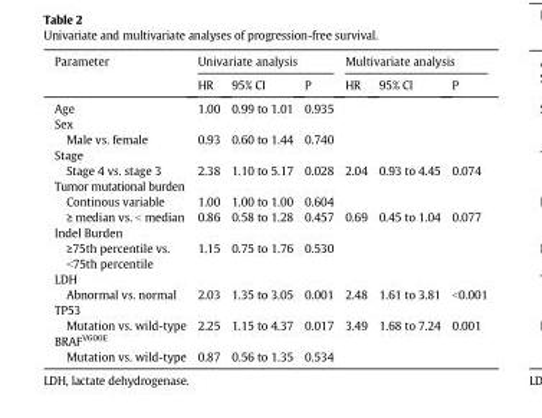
<table><thead><tr><td rowspan="2">Parameter</td><td colspan="3">Univariate analysis</td><td colspan="3">Multivariate analysis</td></tr><tr><td>HR</td><td>95% CI</td><td>P</td><td>HR</td><td>95% CI</td><td>P</td></tr></thead><tbody><tr><td>Age</td><td>1.00</td><td>0.99 to 1.01</td><td>0.935</td><td></td><td></td><td></td></tr><tr><td colspan="7">Sex</td></tr><tr><td>Male vs. female</td><td>0.93</td><td>0.60 to 1.44</td><td>0.740</td><td></td><td></td><td></td></tr><tr><td colspan="7">Stage</td></tr><tr><td>Stage 4 vs. stage 3</td><td>2.38</td><td>1.10 to 5.17</td><td>0.028</td><td>2.04</td><td>0.93 to 4.45</td><td>0.074</td></tr><tr><td colspan="7">Tumor mutational burden</td></tr><tr><td>Continous variable</td><td>1.00</td><td>1.00 to 1.00</td><td>0.604</td><td></td><td></td><td></td></tr><tr><td>≥ median vs. &lt; median</td><td>0.86</td><td>0.58 to 1.28</td><td>0.457</td><td>0.69</td><td>0.45 to 1.04</td><td>0.077</td></tr><tr><td colspan="7">Indel Burden</td></tr><tr><td>≥75th percentile vs. &lt;75th percentile</td><td>1.15</td><td>0.75 to 1.76</td><td>0.530</td><td></td><td></td><td></td></tr><tr><td colspan="7">LDH</td></tr><tr><td>Abnormal vs. normal</td><td>2.03</td><td>1.35 to 3.05</td><td>0.001</td><td>2.48</td><td>1.61 to 3.81</td><td>&lt;0.001</td></tr><tr><td colspan="7">TP53</td></tr><tr><td>Mutation vs. wild-type</td><td>2.25</td><td>1.15 to 4.37</td><td>0.017</td><td>3.49</td><td>1.68 to 7.24</td><td>0.001</td></tr><tr><td colspan="7">BRAF<sup>V600E</sup></td></tr><tr><td>Mutation vs. wild-type</td><td>0.87</td><td>0.56 to 1.35</td><td>0.534</td><td></td><td></td><td></td></tr></tbody></table>